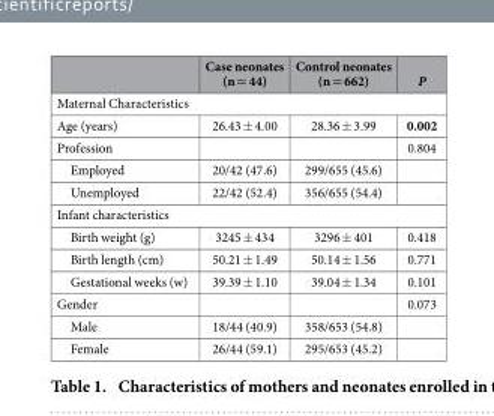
<table><thead><tr><td></td><td>Case neonates (n = 44)</td><td>Control neonates (n = 662)</td><td>P</td></tr></thead><tbody><tr><td colspan="4">Maternal Characteristics</td></tr><tr><td>Age (years)</td><td>26.43 ± 4.00</td><td>28.36 ± 3.99</td><td>0.002</td></tr><tr><td>Profession</td><td></td><td></td><td>0.804</td></tr><tr><td>Employed</td><td>20/42 (47.6)</td><td>299/655 (45.6)</td><td></td></tr><tr><td>Unemployed</td><td>22/42 (52.4)</td><td>356/655 (54.4)</td><td></td></tr><tr><td colspan="4">Infant characteristics</td></tr><tr><td>Birth weight (g)</td><td>3245 ± 434</td><td>3296 ± 401</td><td>0.418</td></tr><tr><td>Birth length (cm)</td><td>50.21 ± 1.49</td><td>50.14 ± 1.56</td><td>0.771</td></tr><tr><td>Gestational weeks (w)</td><td>39.39 ± 1.10</td><td>39.04 ± 1.34</td><td>0.101</td></tr><tr><td>Gender</td><td></td><td></td><td>0.073</td></tr><tr><td>Male</td><td>18/44 (40.9)</td><td>358/653 (54.8)</td><td></td></tr><tr><td>Female</td><td>26/44 (59.1)</td><td>295/653 (45.2)</td><td></td></tr></tbody></table>